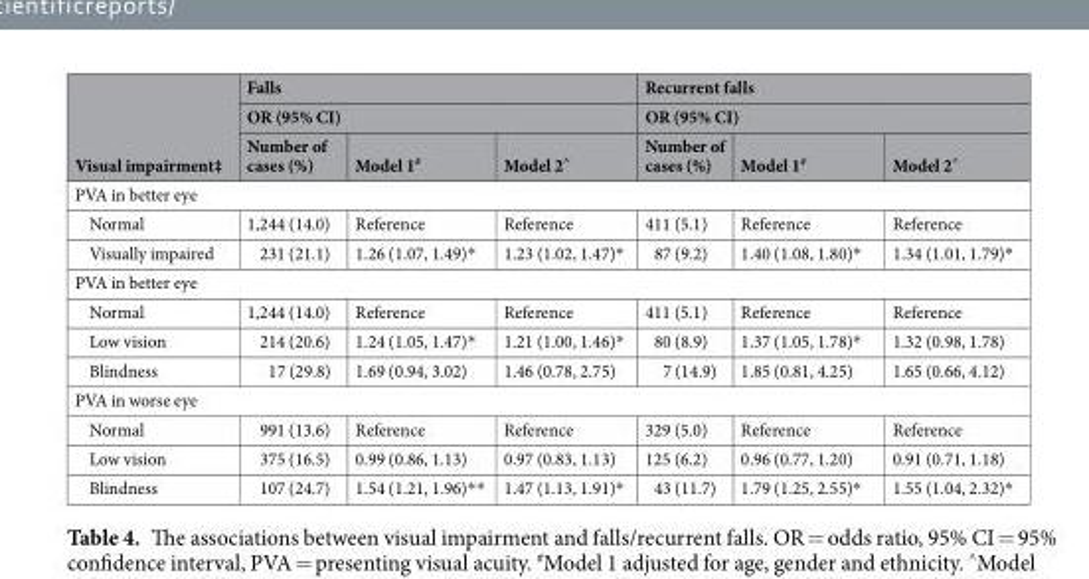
<table><thead><tr><td rowspan="3">Visual impairment‡</td><td rowspan="2" colspan="3">Falls OR (95% CI)</td><td rowspan="2" colspan="3">Recurrent falls OR (95% CI)</td></tr><tr></tr><tr><td>Number of cases (%)</td><td>Model 1<sup>#</sup></td><td>Model 2<sup>^</sup></td><td>Number of cases (%)</td><td>Model 1<sup>#</sup></td><td>Model 2<sup>^</sup></td></tr></thead><tbody><tr><td colspan="7">PVA in better eye</td></tr><tr><td>Normal</td><td>1,244 (14.0)</td><td>Reference</td><td>Reference</td><td>411 (5.1)</td><td>Reference</td><td>Reference</td></tr><tr><td>Visually impaired</td><td>231 (21.1)</td><td>1.26 (1.07, 1.49)*</td><td>1.23 (1.02, 1.47)*</td><td>87 (9.2)</td><td>1.40 (1.08, 1.80)*</td><td>1.34 (1.01, 1.79)*</td></tr><tr><td colspan="7">PVA in better eye</td></tr><tr><td>Normal</td><td>1,244 (14.0)</td><td>Reference</td><td>Reference</td><td>411 (5.1)</td><td>Reference</td><td>Reference</td></tr><tr><td>Low vision</td><td>214 (20.6)</td><td>1.24 (1.05, 1.47)*</td><td>1.21 (1.00, 1.46)*</td><td>80 (8.9)</td><td>1.37 (1.05, 1.78)*</td><td>1.32 (0.98, 1.78)</td></tr><tr><td>Blindness</td><td>17 (29.8)</td><td>1.69 (0.94, 3.02)</td><td>1.46 (0.78, 2.75)</td><td>7 (14.9)</td><td>1.85 (0.81, 4.25)</td><td>1.65 (0.66, 4.12)</td></tr><tr><td colspan="7">PVA in worse eye</td></tr><tr><td>Normal</td><td>991 (13.6)</td><td>Reference</td><td>Reference</td><td>329 (5.0)</td><td>Reference</td><td>Reference</td></tr><tr><td>Low vision</td><td>375 (16.5)</td><td>0.99 (0.86, 1.13)</td><td>0.97 (0.83, 1.13)</td><td>125 (6.2)</td><td>0.96 (0.77, 1.20)</td><td>0.91 (0.71, 1.18)</td></tr><tr><td>Blindness</td><td>107 (24.7)</td><td>1.54 (1.21, 1.96)**</td><td>1.47 (1.13, 1.91)*</td><td>43 (11.7)</td><td>1.79 (1.25, 2.55)*</td><td>1.55 (1.04, 2.32)*</td></tr></tbody></table>